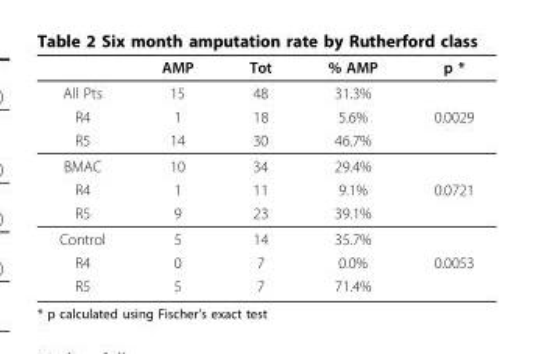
<table><thead><tr><td></td><td>AMP</td><td>Tot</td><td>% AMP</td><td>p *</td></tr></thead><tbody><tr><td>All Pts</td><td>15</td><td>48</td><td>31.3%</td><td></td></tr><tr><td>R4</td><td>1</td><td>18</td><td>5.6%</td><td>0.0029</td></tr><tr><td>R5</td><td>14</td><td>30</td><td>46.7%</td><td></td></tr><tr><td>BMAC</td><td>10</td><td>34</td><td>29.4%</td><td></td></tr><tr><td>R4</td><td>1</td><td>11</td><td>9.1%</td><td>0.0721</td></tr><tr><td>R5</td><td>9</td><td>23</td><td>39.1%</td><td></td></tr><tr><td>Control</td><td>5</td><td>14</td><td>35.7%</td><td></td></tr><tr><td>R4</td><td>0</td><td>7</td><td>0.0%</td><td>0.0053</td></tr><tr><td>R5</td><td>5</td><td>7</td><td>71.4%</td><td></td></tr></tbody></table>